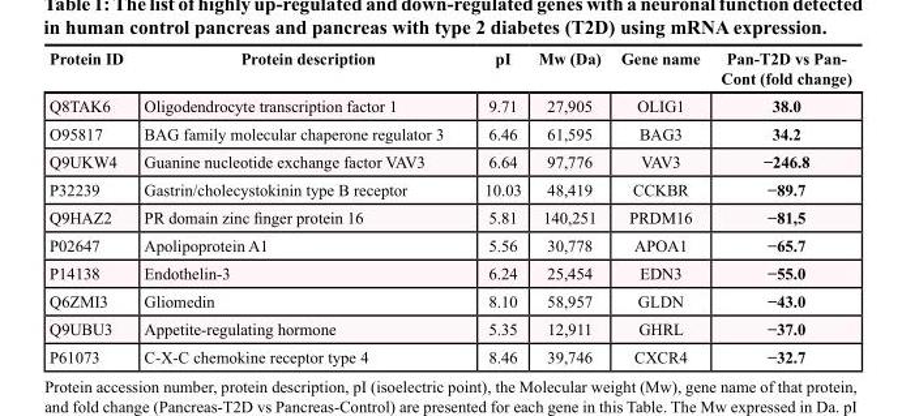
<table><thead><tr><td>Protein ID</td><td>Protein description</td><td>pI</td><td>Mw (Da)</td><td>Gene name</td><td>Pan-T2D vs Pan- Cont (fold change)</td></tr></thead><tbody><tr><td>Q8TAK6</td><td>Oligodendrocyte transcription factor 1</td><td>9.71</td><td>27,905</td><td>OLIG1</td><td>38.0</td></tr><tr><td>O95817</td><td>BAG family molecular chaperone regulator 3</td><td>6.46</td><td>61,595</td><td>BAG3</td><td>34.2</td></tr><tr><td>Q9UKW4</td><td>Guanine nucleotide exchange factor VAV3</td><td>6.64</td><td>97,776</td><td>VAV3</td><td>−246.8</td></tr><tr><td>P32239</td><td>Gastrin/cholecystokinin type B receptor</td><td>10.03</td><td>48,419</td><td>CCKBR</td><td>−89.7</td></tr><tr><td>Q9HAZ2</td><td>PR domain zinc finger protein 16</td><td>5.81</td><td>140,251</td><td>PRDM16</td><td>−81,5</td></tr><tr><td>P02647</td><td>Apolipoprotein A1</td><td>5.56</td><td>30,778</td><td>APOA1</td><td>−65.7</td></tr><tr><td>P14138</td><td>Endothelin-3</td><td>6.24</td><td>25,454</td><td>EDN3</td><td>−55.0</td></tr><tr><td>Q6ZMI3</td><td>Gliomedin</td><td>8.10</td><td>58,957</td><td>GLDN</td><td>−43.0</td></tr><tr><td>Q9UBU3</td><td>Appetite-regulating hormone</td><td>5.35</td><td>12,911</td><td>GHRL</td><td>−37.0</td></tr><tr><td>P61073</td><td>C-X-C chemokine receptor type 4</td><td>8.46</td><td>39,746</td><td>CXCR4</td><td>−32.7</td></tr></tbody></table>